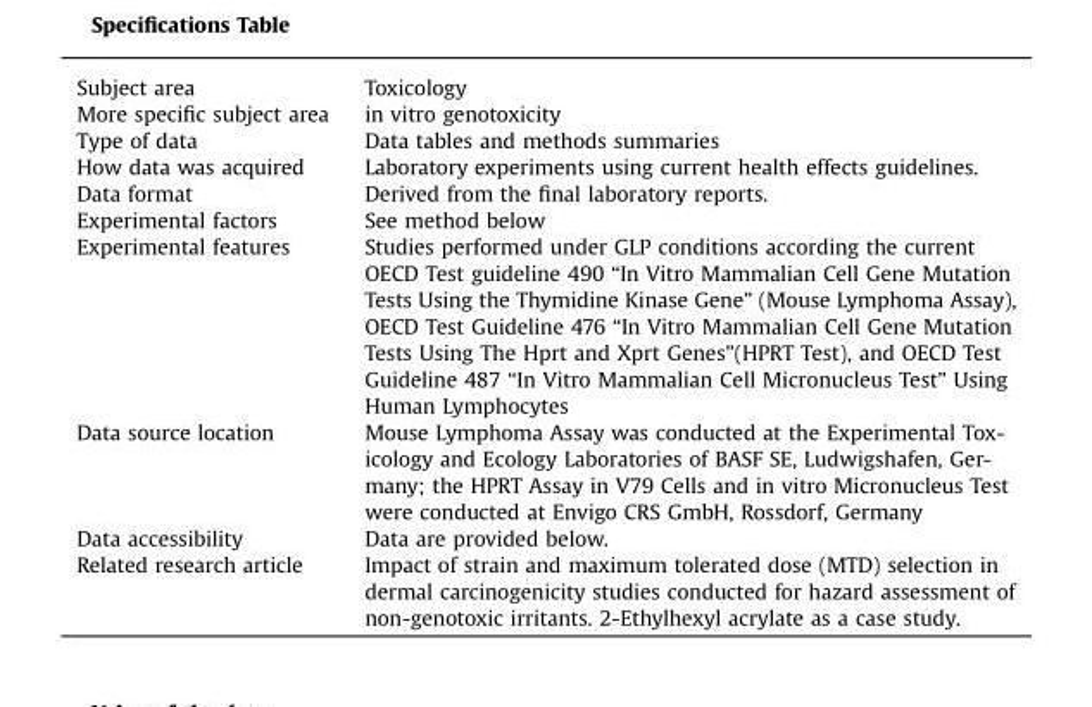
<table><tbody><tr><td>Subject area</td><td>Toxicology</td></tr><tr><td>More specific subject area</td><td>in vitro genotoxicity</td></tr><tr><td>Type of data</td><td>Data tables and methods summaries</td></tr><tr><td>How data was acquired</td><td>Laboratory experiments using current health effects guidelines.</td></tr><tr><td>Data format</td><td>Derived from the final laboratory reports.</td></tr><tr><td>Experimental factors</td><td>See method below</td></tr><tr><td>Experimental features</td><td>Studies performed under GLP conditions according the current OECD Test guideline 490 “In Vitro Mammalian Cell Gene Mutation Tests Using the Thymidine Kinase Gene” (Mouse Lymphoma Assay), OECD Test Guideline 476 “In Vitro Mammalian Cell Gene Mutation Tests Using The Hprt and Xprt Genes”(HPRT Test), and OECD Test Guideline 487 “In Vitro Mammalian Cell Micronucleus Test” Using Human Lymphocytes</td></tr><tr><td>Data source location</td><td>Mouse Lymphoma Assay was conducted at the Experimental Tox- icology and Ecology Laboratories of BASF SE, Ludwigshafen, Ger- many; the HPRT Assay in V79 Cells and in vitro Micronucleus Test were conducted at Envigo CRS GmbH, Rossdorf, Germany</td></tr><tr><td>Data accessibility</td><td>Data are provided below.</td></tr><tr><td>Related research article</td><td>Impact of strain and maximum tolerated dose (MTD) selection in dermal carcinogenicity studies conducted for hazard assessment of non-genotoxic irritants. 2-Ethylhexyl acrylate as a case study.</td></tr></tbody></table>